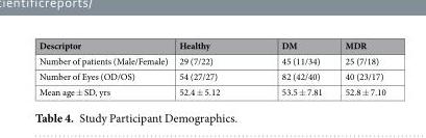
<table><thead><tr><td>Descriptor</td><td>Healthy</td><td>DM</td><td>MDR</td></tr></thead><tbody><tr><td>Number of patients (Male/Female)</td><td>29 (7/22)</td><td>45 (11/34)</td><td>25 (7/18)</td></tr><tr><td>Number of Eyes (OD/OS)</td><td>54 (27/27)</td><td>82 (42/40)</td><td>40 (23/17)</td></tr><tr><td>Mean age ± SD, yrs</td><td>52.4 ± 5.12</td><td>53.5 ± 7.81</td><td>52.8 ± 7.10</td></tr></tbody></table>